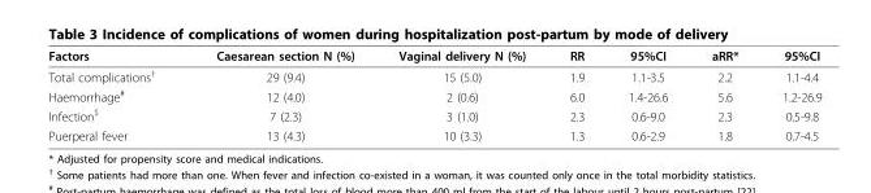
<table><thead><tr><td>Factors</td><td>Caesarean section N (%)</td><td>Vaginal delivery N (%)</td><td>RR</td><td>95%CI</td><td>aRR*</td><td>95%CI</td></tr></thead><tbody><tr><td>Total complications<sup>†</sup></td><td>29 (9.4)</td><td>15 (5.0)</td><td>1.9</td><td>1.1-3.5</td><td>2.2</td><td>1.1-4.4</td></tr><tr><td>Haemorrhage<sup>#</sup></td><td>12 (4.0)</td><td>2 (0.6)</td><td>6.0</td><td>1.4-26.6</td><td>5.6</td><td>1.2-26.9</td></tr><tr><td>Infection<sup>$</sup></td><td>7 (2.3)</td><td>3 (1.0)</td><td>2.3</td><td>0.6-9.0</td><td>2.3</td><td>0.5-9.8</td></tr><tr><td>Puerperal fever</td><td>13 (4.3)</td><td>10 (3.3)</td><td>1.3</td><td>0.6-2.9</td><td>1.8</td><td>0.7-4.5</td></tr></tbody></table>